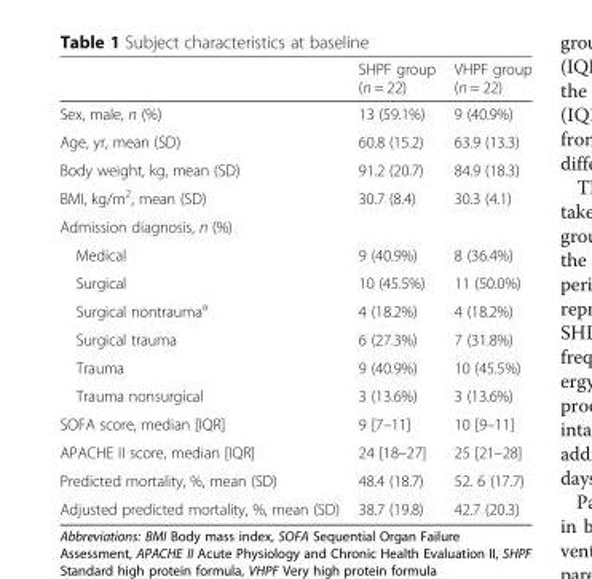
<table><thead><tr><td></td><td>SHPF group (n = 22)</td><td>VHPF group (n = 22)</td></tr></thead><tbody><tr><td>Sex, male, n (%)</td><td>13 (59.1%)</td><td>9 (40.9%)</td></tr><tr><td>Age, yr, mean (SD)</td><td>60.8 (15.2)</td><td>63.9 (13.3)</td></tr><tr><td>Body weight, kg, mean (SD)</td><td>91.2 (20.7)</td><td>84.9 (18.3)</td></tr><tr><td>BMI, kg/m<sup>2</sup>, mean (SD)</td><td>30.7 (8.4)</td><td>30.3 (4.1)</td></tr><tr><td colspan="3">Admission diagnosis, n (%)</td></tr><tr><td>Medical</td><td>9 (40.9%)</td><td>8 (36.4%)</td></tr><tr><td>Surgical</td><td>10 (45.5%)</td><td>11 (50.0%)</td></tr><tr><td>Surgical nontrauma<sup>a</sup></td><td>4 (18.2%)</td><td>4 (18.2%)</td></tr><tr><td>Surgical trauma</td><td>6 (27.3%)</td><td>7 (31.8%)</td></tr><tr><td>Trauma</td><td>9 (40.9%)</td><td>10 (45.5%)</td></tr><tr><td>Trauma nonsurgical</td><td>3 (13.6%)</td><td>3 (13.6%)</td></tr><tr><td>SOFA score, median [IQR]</td><td>9 [7–11]</td><td>10 [9–11]</td></tr><tr><td>APACHE II score, median [IQR]</td><td>24 [18–27]</td><td>25 [21–28]</td></tr><tr><td>Predicted mortality, %, mean (SD)</td><td>48.4 (18.7)</td><td>52. 6 (17.7)</td></tr><tr><td>Adjusted predicted mortality, %, mean (SD)</td><td>38.7 (19.8)</td><td>42.7 (20.3)</td></tr></tbody></table>